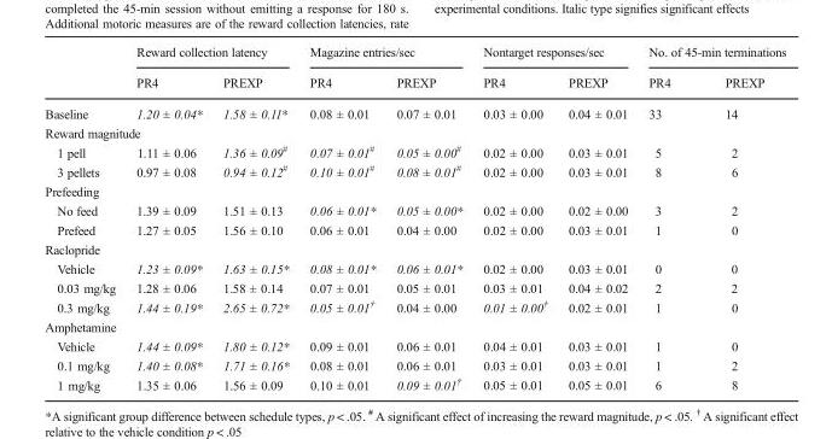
<table><thead><tr><td rowspan="2"></td><td colspan="2">Reward collection latency</td><td colspan="2">Magazine entries/sec</td><td colspan="2">Nontarget responses/sec</td><td colspan="2">No. of 45-min terminations</td></tr><tr><td>PR4</td><td>PREXP</td><td>PR4</td><td>PREXP</td><td>PR4</td><td>PREXP</td><td>PR4</td><td>PREXP</td></tr></thead><tbody><tr><td>Baseline</td><td>1.20 ± 0.04*</td><td>1.58 ± 0.11*</td><td>0.08 ± 0.01</td><td>0.07 ± 0.01</td><td>0.03 ± 0.00</td><td>0.04 ± 0.01</td><td>33</td><td>14</td></tr><tr><td colspan="9">Reward magnitude</td></tr><tr><td>1 pell</td><td>1.11 ± 0.06</td><td>1.36 ± 0.09<sup>#</sup></td><td>0.07 ± 0.01<sup>#</sup></td><td>0.05 ± 0.00<sup>#</sup></td><td>0.02 ± 0.00</td><td>0.03 ± 0.01</td><td>5</td><td>2</td></tr><tr><td>3 pellets</td><td>0.97 ± 0.08</td><td>0.94 ± 0.12<sup>#</sup></td><td>0.10 ± 0.01<sup>#</sup></td><td>0.08 ± 0.01<sup>#</sup></td><td>0.02 ± 0.00</td><td>0.03 ± 0.01</td><td>8</td><td>6</td></tr><tr><td colspan="9">Prefeeding</td></tr><tr><td>No feed</td><td>1.39 ± 0.09</td><td>1.51 ± 0.13</td><td>0.06 ± 0.01*</td><td>0.05 ± 0.00*</td><td>0.02 ± 0.00</td><td>0.02 ± 0.00</td><td>3</td><td>2</td></tr><tr><td>Prefeed</td><td>1.27 ± 0.05</td><td>1.56 ± 0.10</td><td>0.06 ± 0.01</td><td>0.04 ± 0.00</td><td>0.02 ± 0.00</td><td>0.03 ± 0.01</td><td>1</td><td>0</td></tr><tr><td colspan="9">Raclopride</td></tr><tr><td>Vehicle</td><td>1.23 ± 0.09*</td><td>1.63 ± 0.15*</td><td>0.08 ± 0.01*</td><td>0.06 ± 0.01*</td><td>0.02 ± 0.00</td><td>0.03 ± 0.01</td><td>0</td><td>0</td></tr><tr><td>0.03 mg/kg</td><td>1.28 ± 0.06</td><td>1.58 ± 0.14</td><td>0.07 ± 0.01</td><td>0.05 ± 0.01</td><td>0.03 ± 0.01</td><td>0.04 ± 0.02</td><td>2</td><td>2</td></tr><tr><td>0.3 mg/kg</td><td>1.44 ± 0.19*</td><td>2.65 ± 0.72*</td><td>0.05 ± 0.01<sup>†</sup></td><td>0.04 ± 0.00</td><td>0.01 ± 0.00<sup>†</sup></td><td>0.02 ± 0.01</td><td>1</td><td>0</td></tr><tr><td colspan="9">Amphetamine</td></tr><tr><td>Vehicle</td><td>1.44 ± 0.09*</td><td>1.80 ± 0.12*</td><td>0.09 ± 0.01</td><td>0.06 ± 0.01</td><td>0.04 ± 0.01</td><td>0.03 ± 0.01</td><td>1</td><td>0</td></tr><tr><td>0.1 mg/kg</td><td>1.40 ± 0.08*</td><td>1.71 ± 0.16*</td><td>0.08 ± 0.01</td><td>0.06 ± 0.01</td><td>0.03 ± 0.01</td><td>0.03 ± 0.01</td><td>1</td><td>2</td></tr><tr><td>1 mg/kg</td><td>1.35 ± 0.06</td><td>1.56 ± 0.09</td><td>0.10 ± 0.01</td><td>0.09 ± 0.01<sup>†</sup></td><td>0.05 ± 0.01</td><td>0.05 ± 0.01</td><td>6</td><td>8</td></tr></tbody></table>